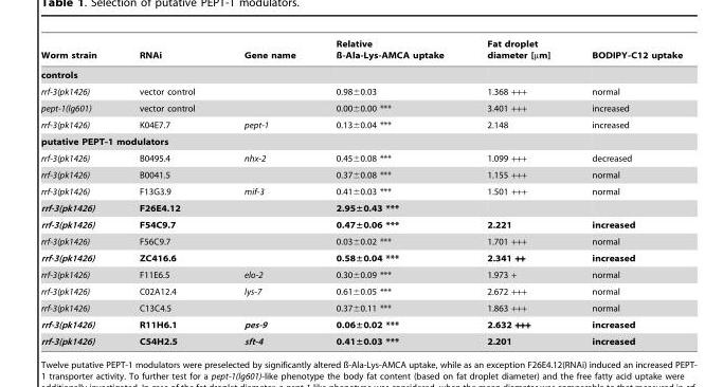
<table><thead><tr><td>Worm strain</td><td>RNAi</td><td>Gene name</td><td>Relative ß-Ala-Lys-AMCA uptake</td><td>Fat droplet diameter [µm]</td><td>BODIPY-C12 uptake</td></tr></thead><tbody><tr><td colspan="6">controls</td></tr><tr><td>rrf-3(pk1426)</td><td>vector control</td><td></td><td>0.98±0.03</td><td>1.368 +++</td><td>normal</td></tr><tr><td>pept-1(lg601)</td><td>vector control</td><td></td><td>0.00±0.00 ***</td><td>3.401 +++</td><td>increased</td></tr><tr><td>rrf-3(pk1426)</td><td>K04E7.7</td><td>pept-1</td><td>0.13±0.04 ***</td><td>2.148</td><td>increased</td></tr><tr><td colspan="6">putative PEPT-1 modulators</td></tr><tr><td>rrf-3(pk1426)</td><td>B0495.4</td><td>nhx-2</td><td>0.45±0.08 ***</td><td>1.099 +++</td><td>decreased</td></tr><tr><td>rrf-3(pk1426)</td><td>B0041.5</td><td></td><td>0.37±0.08 ***</td><td>1.155 +++</td><td>normal</td></tr><tr><td>rrf-3(pk1426)</td><td>F13G3.9</td><td>mif-3</td><td>0.41±0.03 ***</td><td>1.501 +++</td><td>normal</td></tr><tr><td>rrf-3(pk1426)</td><td>F26E4.12</td><td></td><td>2.95±0.43 ***</td><td></td><td></td></tr><tr><td>rrf-3(pk1426)</td><td>F54C9.7</td><td></td><td>0.47±0.06 ***</td><td>2.221</td><td>increased</td></tr><tr><td>rrf-3(pk1426)</td><td>F56C9.7</td><td></td><td>0.03±0.02 ***</td><td>1.701 +++</td><td>normal</td></tr><tr><td>rrf-3(pk1426)</td><td>ZC416.6</td><td></td><td>0.58±0.04 ***</td><td>2.341 ++</td><td>increased</td></tr><tr><td>rrf-3(pk1426)</td><td>F11E6.5</td><td>elo-2</td><td>0.30±0.09 ***</td><td>1.973 +</td><td>normal</td></tr><tr><td>rrf-3(pk1426)</td><td>C02A12.4</td><td>lys-7</td><td>0.61±0.05 ***</td><td>2.672 +++</td><td>normal</td></tr><tr><td>rrf-3(pk1426)</td><td>C13C4.5</td><td></td><td>0.37±0.11 ***</td><td>1.863 +++</td><td>normal</td></tr><tr><td>rrf-3(pk1426)</td><td>R11H6.1</td><td>pes-9</td><td>0.06±0.02 ***</td><td>2.632 +++</td><td>increased</td></tr><tr><td>rrf-3(pk1426)</td><td>C54H2.5</td><td>sft-4</td><td>0.41±0.03 ***</td><td>2.201</td><td>increased</td></tr></tbody></table>